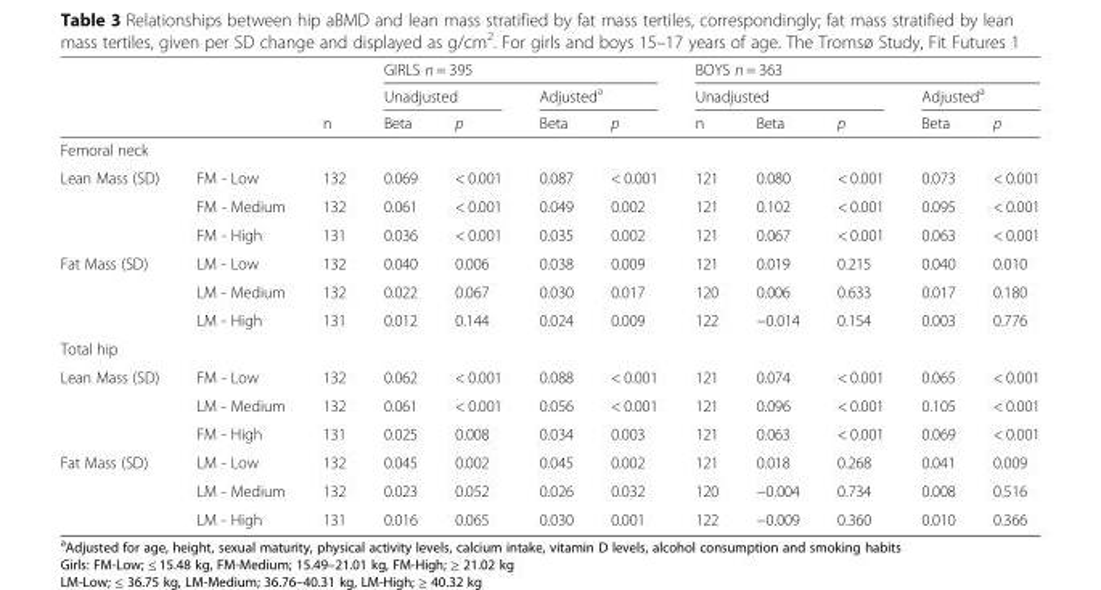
<table><thead><tr><td rowspan="3"></td><td rowspan="3"></td><td rowspan="3">n</td><td colspan="4">GIRLS n = 395</td><td colspan="5">BOYS n = 363</td></tr><tr><td colspan="2">Unadjusted</td><td colspan="2">Adjusted<sup>a</sup></td><td colspan="3">Unadjusted</td><td colspan="2">Adjusted<sup>a</sup></td></tr><tr><td>Beta</td><td>p</td><td>Beta</td><td>p</td><td>n</td><td>Beta</td><td>p</td><td>Beta</td><td>p</td></tr></thead><tbody><tr><td colspan="12">Femoral neck</td></tr><tr><td rowspan="3">Lean Mass (SD)</td><td>FM - Low</td><td>132</td><td>0.069</td><td>&lt; 0.001</td><td>0.087</td><td>&lt; 0.001</td><td>121</td><td>0.080</td><td>&lt; 0.001</td><td>0.073</td><td>&lt; 0.001</td></tr><tr><td>FM - Medium</td><td>132</td><td>0.061</td><td>&lt; 0.001</td><td>0.049</td><td>0.002</td><td>121</td><td>0.102</td><td>&lt; 0.001</td><td>0.095</td><td>&lt; 0.001</td></tr><tr><td>FM - High</td><td>131</td><td>0.036</td><td>&lt; 0.001</td><td>0.035</td><td>0.002</td><td>121</td><td>0.067</td><td>&lt; 0.001</td><td>0.063</td><td>&lt; 0.001</td></tr><tr><td rowspan="3">Fat Mass (SD)</td><td>LM - Low</td><td>132</td><td>0.040</td><td>0.006</td><td>0.038</td><td>0.009</td><td>121</td><td>0.019</td><td>0.215</td><td>0.040</td><td>0.010</td></tr><tr><td>LM - Medium</td><td>132</td><td>0.022</td><td>0.067</td><td>0.030</td><td>0.017</td><td>120</td><td>0.006</td><td>0.633</td><td>0.017</td><td>0.180</td></tr><tr><td>LM - High</td><td>131</td><td>0.012</td><td>0.144</td><td>0.024</td><td>0.009</td><td>122</td><td>−0.014</td><td>0.154</td><td>0.003</td><td>0.776</td></tr><tr><td colspan="12">Total hip</td></tr><tr><td rowspan="3">Lean Mass (SD)</td><td>FM - Low</td><td>132</td><td>0.062</td><td>&lt; 0.001</td><td>0.088</td><td>&lt; 0.001</td><td>121</td><td>0.074</td><td>&lt; 0.001</td><td>0.065</td><td>&lt; 0.001</td></tr><tr><td>LM - Medium</td><td>132</td><td>0.061</td><td>&lt; 0.001</td><td>0.056</td><td>&lt; 0.001</td><td>121</td><td>0.096</td><td>&lt; 0.001</td><td>0.105</td><td>&lt; 0.001</td></tr><tr><td>FM - High</td><td>131</td><td>0.025</td><td>0.008</td><td>0.034</td><td>0.003</td><td>121</td><td>0.063</td><td>&lt; 0.001</td><td>0.069</td><td>&lt; 0.001</td></tr><tr><td rowspan="3">Fat Mass (SD)</td><td>LM - Low</td><td>132</td><td>0.045</td><td>0.002</td><td>0.045</td><td>0.002</td><td>121</td><td>0.018</td><td>0.268</td><td>0.041</td><td>0.009</td></tr><tr><td>LM - Medium</td><td>132</td><td>0.023</td><td>0.052</td><td>0.026</td><td>0.032</td><td>120</td><td>−0.004</td><td>0.734</td><td>0.008</td><td>0.516</td></tr><tr><td>LM - High</td><td>131</td><td>0.016</td><td>0.065</td><td>0.030</td><td>0.001</td><td>122</td><td>−0.009</td><td>0.360</td><td>0.010</td><td>0.366</td></tr></tbody></table>